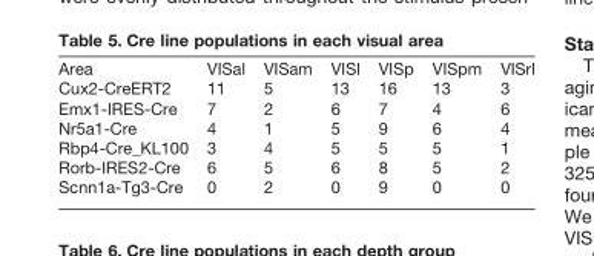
<table><thead><tr><td>Area</td><td>VISal</td><td>VISam</td><td>VISl</td><td>VISp</td><td>VISpm</td><td>VISrl</td></tr></thead><tbody><tr><td>Cux2-CreERT2</td><td>11</td><td>5</td><td>13</td><td>16</td><td>13</td><td>3</td></tr><tr><td>Emx1-IRES-Cre</td><td>7</td><td>2</td><td>6</td><td>7</td><td>4</td><td>6</td></tr><tr><td>Nr5a1-Cre</td><td>4</td><td>1</td><td>5</td><td>9</td><td>6</td><td>4</td></tr><tr><td>Rbp4-Cre_KL100</td><td>3</td><td>4</td><td>5</td><td>5</td><td>5</td><td>1</td></tr><tr><td>Rorb-IRES2-Cre</td><td>6</td><td>5</td><td>6</td><td>8</td><td>5</td><td>2</td></tr><tr><td>Scnn1a-Tg3-Cre</td><td>0</td><td>2</td><td>0</td><td>9</td><td>0</td><td>0</td></tr></tbody></table>